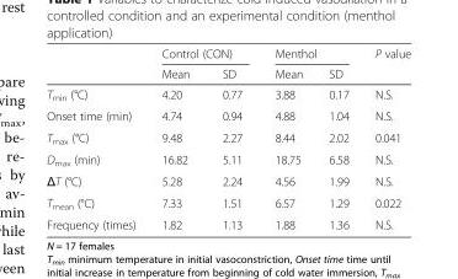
<table><thead><tr><td rowspan="2"></td><td colspan="2">Control (CON)</td><td colspan="2">Menthol</td><td rowspan="2">P value</td></tr><tr><td>Mean</td><td>SD</td><td>Mean</td><td>SD</td></tr></thead><tbody><tr><td>T<sub>min</sub> (°C)</td><td>4.20</td><td>0.77</td><td>3.88</td><td>0.17</td><td>N.S.</td></tr><tr><td>Onset time (min)</td><td>4.74</td><td>0.94</td><td>4.88</td><td>1.04</td><td>N.S.</td></tr><tr><td>T<sub>max</sub> (°C)</td><td>9.48</td><td>2.27</td><td>8.44</td><td>2.02</td><td>0.041</td></tr><tr><td>D<sub>max</sub> (min)</td><td>16.82</td><td>5.11</td><td>18.75</td><td>6.58</td><td>N.S.</td></tr><tr><td>ΔT (°C)</td><td>5.28</td><td>2.24</td><td>4.56</td><td>1.99</td><td>N.S.</td></tr><tr><td>T<sub>mean</sub> (°C)</td><td>7.33</td><td>1.51</td><td>6.57</td><td>1.29</td><td>0.022</td></tr><tr><td>Frequency (times)</td><td>1.82</td><td>1.13</td><td>1.88</td><td>1.36</td><td>N.S.</td></tr></tbody></table>